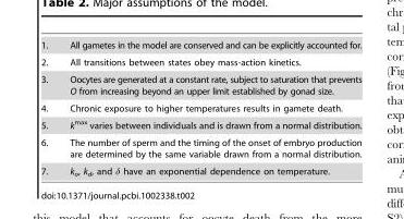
<table><tbody><tr><td>1.</td><td>All gametes in the model are conserved and can be explicitly accounted for.</td></tr><tr><td>2.</td><td>All transitions between states obey mass-action kinetics.</td></tr><tr><td>3.</td><td>Oocytes are generated at a constant rate, subject to saturation that prevents O from increasing beyond an upper limit established by gonad size.</td></tr><tr><td>4.</td><td>Chronic exposure to higher temperatures results in gamete death.</td></tr><tr><td>5.</td><td>k<sup>max</sup> varies between individuals and is drawn from a normal distribution.</td></tr><tr><td>6.</td><td>The number of sperm and the timing of the onset of embryo production are determined by the same variable drawn from a normal distribution.</td></tr><tr><td>7.</td><td>k<sub>o</sub>, k<sub>d</sub>, and δ have an exponential dependence on temperature.</td></tr></tbody></table>